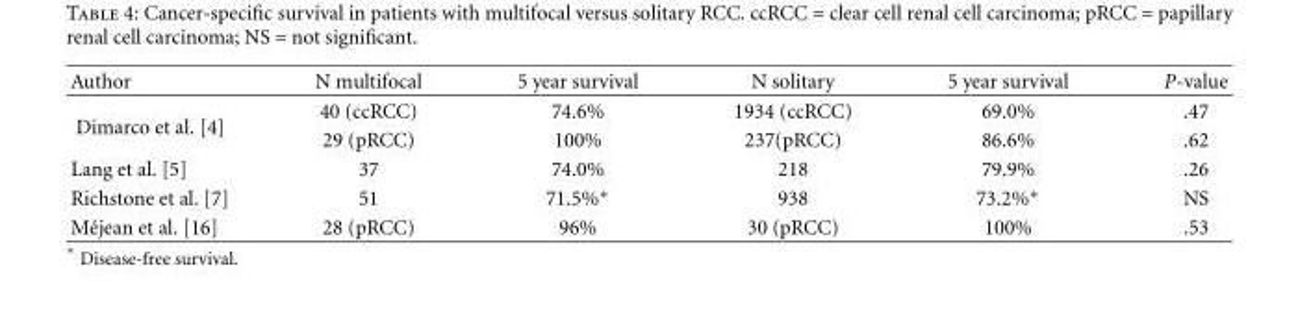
<table><thead><tr><td>Author</td><td>N multifocal</td><td>5 year survival</td><td>N solitary</td><td>5 year survival</td><td>P-value</td></tr></thead><tbody><tr><td rowspan="2">Dimarco et al. [4]</td><td>40 (ccRCC)</td><td>74.6%</td><td>1934 (ccRCC)</td><td>69.0%</td><td>.47</td></tr><tr><td>29 (pRCC)</td><td>100%</td><td>237(pRCC)</td><td>86.6%</td><td>.62</td></tr><tr><td>Lang et al. [5]</td><td>37</td><td>74.0%</td><td>218</td><td>79.9%</td><td>.26</td></tr><tr><td>Richstone et al. [7]</td><td>51</td><td>71.5%∗</td><td>938</td><td>73.2%∗</td><td>NS</td></tr><tr><td>M´ejean et al. [16]</td><td>28 (pRCC)</td><td>96%</td><td>30 (pRCC)</td><td>100%</td><td>.53</td></tr></tbody></table>